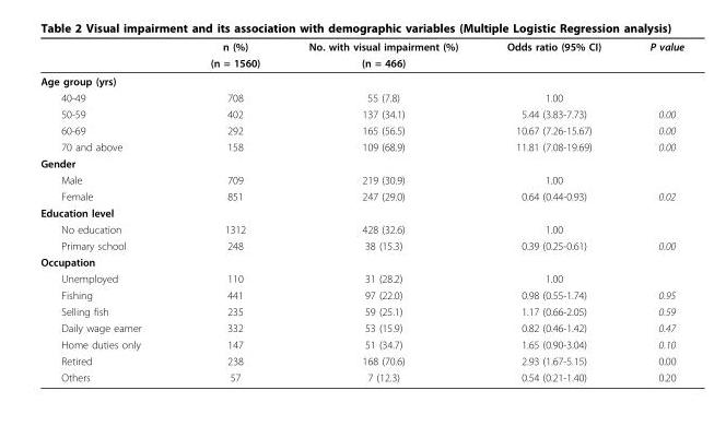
<table><thead><tr><td rowspan="2"></td><td rowspan="2">n (%) (n = 1560)</td><td rowspan="2">No. with visual impairment (%) (n = 466)</td><td rowspan="2">Odds ratio (95% CI)</td><td rowspan="2">P value</td></tr><tr></tr></thead><tbody><tr><td colspan="5">Age group (yrs)</td></tr><tr><td>40-49</td><td>708</td><td>55 (7.8)</td><td>1.00</td><td></td></tr><tr><td>50-59</td><td>402</td><td>137 (34.1)</td><td>5.44 (3.83-7.73)</td><td>0.00</td></tr><tr><td>60-69</td><td>292</td><td>165 (56.5)</td><td>10.67 (7.26-15.67)</td><td>0.00</td></tr><tr><td>70 and above</td><td>158</td><td>109 (68.9)</td><td>11.81 (7.08-19.69)</td><td>0.00</td></tr><tr><td colspan="5">Gender</td></tr><tr><td>Male</td><td>709</td><td>219 (30.9)</td><td>1.00</td><td></td></tr><tr><td>Female</td><td>851</td><td>247 (29.0)</td><td>0.64 (0.44-0.93)</td><td>0.02</td></tr><tr><td colspan="5">Education level</td></tr><tr><td>No education</td><td>1312</td><td>428 (32.6)</td><td>1.00</td><td></td></tr><tr><td>Primary school</td><td>248</td><td>38 (15.3)</td><td>0.39 (0.25-0.61)</td><td>0.00</td></tr><tr><td colspan="5">Occupation</td></tr><tr><td>Unemployed</td><td>110</td><td>31 (28.2)</td><td>1.00</td><td></td></tr><tr><td>Fishing</td><td>441</td><td>97 (22.0)</td><td>0.98 (0.55-1.74)</td><td>0.95</td></tr><tr><td>Selling fish</td><td>235</td><td>59 (25.1)</td><td>1.17 (0.66-2.05)</td><td>0.59</td></tr><tr><td>Daily wage earner</td><td>332</td><td>53 (15.9)</td><td>0.82 (0.46-1.42)</td><td>0.47</td></tr><tr><td>Home duties only</td><td>147</td><td>51 (34.7)</td><td>1.65 (0.90-3.04)</td><td>0.10</td></tr><tr><td>Retired</td><td>238</td><td>168 (70.6)</td><td>2.93 (1.67-5.15)</td><td>0.00</td></tr><tr><td>Others</td><td>57</td><td>7 (12.3)</td><td>0.54 (0.21-1.40)</td><td>0.20</td></tr></tbody></table>